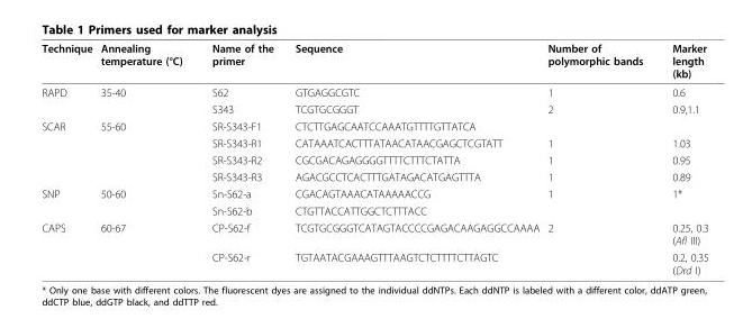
<table><thead><tr><td>Technique</td><td>Annealing temperature (°C)</td><td>Name of the primer</td><td>Sequence</td><td>Number of polymorphic bands</td><td>Marker length (kb)</td></tr></thead><tbody><tr><td rowspan="2">RAPD</td><td>35-40</td><td>S62</td><td>GTGAGGCGTC</td><td>1</td><td>0.6</td></tr><tr><td></td><td>S343</td><td>TCGTGCGGGT</td><td>2</td><td>0.9,1.1</td></tr><tr><td rowspan="4">SCAR</td><td>55-60</td><td>SR-S343-F1</td><td>CTCTTGAGCAATCCAAATGTTTTGTTATCA</td><td></td><td></td></tr><tr><td></td><td>SR-S343-R1</td><td>CATAAATCACTTTATAACATAACGAGCTCGTATT</td><td>1</td><td>1.03</td></tr><tr><td></td><td>SR-S343-R2</td><td>CGCGACAGAGGGGTTTTCTTTCTATTA</td><td>1</td><td>0.95</td></tr><tr><td></td><td>SR-S343-R3</td><td>AGACGCCTCACTTTGATAGACATGAGTTTA</td><td>1</td><td>0.89</td></tr><tr><td rowspan="2">SNP</td><td>50-60</td><td>Sn-S62-a</td><td>CGACAGTAAACATAAAAACCG</td><td>1</td><td>1*</td></tr><tr><td></td><td>Sn-S62-b</td><td>CTGTTACCATTGGCTCTTTACC</td><td></td><td></td></tr><tr><td rowspan="2">CAPS</td><td>60-67</td><td>CP-S62-f</td><td>TCGTGCGGGTCATAGTACCCCGAGACAAGAGGCCAAAA</td><td>2</td><td>0.25, 0.3 (Afl III)</td></tr><tr><td></td><td>CP-S62-r</td><td>TGTAATACGAAAGTTTAAGTCTCTTTTCTTAGTC</td><td></td><td>0.2, 0.35 (Drd I)</td></tr></tbody></table>